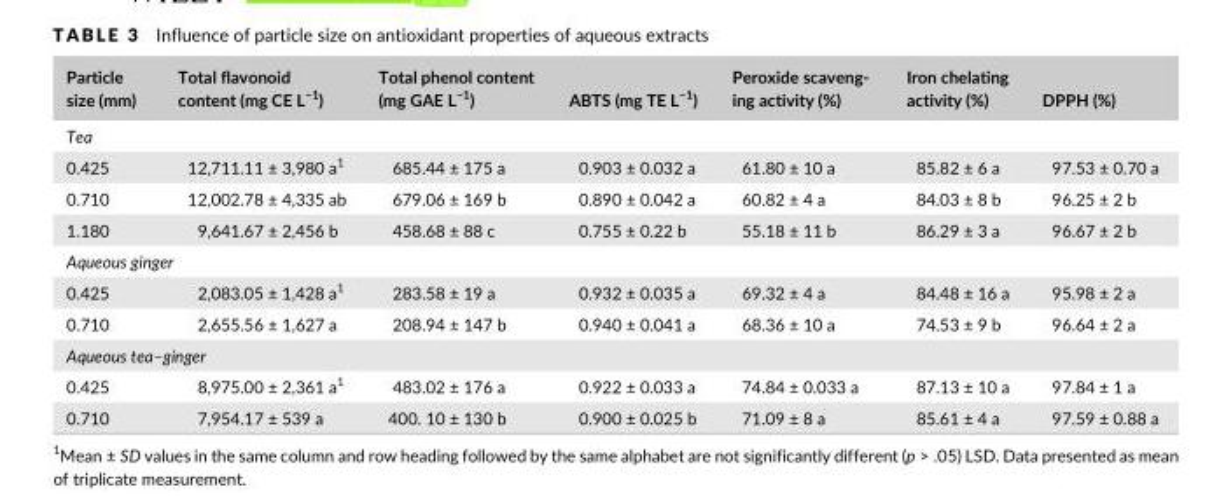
<table><thead><tr><td>Particle size (mm)</td><td>Total flavonoid content (mg CE L<sup>−1</sup>)</td><td>Total phenol content (mg GAE L<sup>−1</sup>)</td><td>ABTS (mg TE L<sup>−1</sup>)</td><td>Peroxide scaveng- ing activity (%)</td><td>Iron chelating activity (%)</td><td>DPPH (%)</td></tr></thead><tbody><tr><td colspan="7">Tea</td></tr><tr><td>0.425</td><td>12,711.11 ± 3,980 a1</td><td>685.44 ± 175 a</td><td>0.903 ± 0.032 a</td><td>61.80 ± 10 a</td><td>85.82 ± 6 a</td><td>97.53 ± 0.70 a</td></tr><tr><td>0.710</td><td>12,002.78 ± 4,335 ab</td><td>679.06 ± 169 b</td><td>0.890 ± 0.042 a</td><td>60.82 ± 4 a</td><td>84.03 ± 8 b</td><td>96.25 ± 2 b</td></tr><tr><td>1.180</td><td>9,641.67 ± 2,456 b</td><td>458.68 ± 88 c</td><td>0.755 ± 0.22 b</td><td>55.18 ± 11 b</td><td>86.29 ± 3 a</td><td>96.67 ± 2 b</td></tr><tr><td colspan="7">Aqueous ginger</td></tr><tr><td>0.425</td><td>2,083.05 ± 1,428 a1</td><td>283.58 ± 19 a</td><td>0.932 ± 0.035 a</td><td>69.32 ± 4 a</td><td>84.48 ± 16 a</td><td>95.98 ± 2 a</td></tr><tr><td>0.710</td><td>2,655.56 ± 1,627 a</td><td>208.94 ± 147 b</td><td>0.940 ± 0.041 a</td><td>68.36 ± 10 a</td><td>74.53 ± 9 b</td><td>96.64 ± 2 a</td></tr><tr><td colspan="7">Aqueous tea–ginger</td></tr><tr><td>0.425</td><td>8,975.00 ± 2,361 a1</td><td>483.02 ± 176 a</td><td>0.922 ± 0.033 a</td><td>74.84 ± 0.033 a</td><td>87.13 ± 10 a</td><td>97.84 ± 1 a</td></tr><tr><td>0.710</td><td>7,954.17 ± 539 a</td><td>400. 10 ± 130 b</td><td>0.900 ± 0.025 b</td><td>71.09 ± 8 a</td><td>85.61 ± 4 a</td><td>97.59 ± 0.88 a</td></tr></tbody></table>